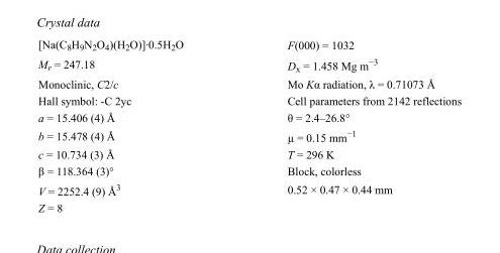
<table><tbody><tr><td>[Na(C<sub>8</sub>H<sub>9</sub>N<sub>2</sub>O<sub>4</sub>)(H<sub>2</sub>O)]·0.5H<sub>2</sub>O</td><td>F(000) = 1032</td></tr><tr><td>M<sub>r</sub> = 247.18</td><td>D<sub>x</sub> = 1.458 Mg m<sup>−3</sup></td></tr><tr><td>Monoclinic, C2/c</td><td>Mo Kα radiation, λ = 0.71073 Å</td></tr><tr><td>Hall symbol: -C 2yc</td><td>Cell parameters from 2142 reflections</td></tr><tr><td>a = 15.406 (4) Å</td><td>θ = 2.4–26.8°</td></tr><tr><td>b = 15.478 (4) Å</td><td>µ = 0.15 mm<sup>−1</sup></td></tr><tr><td>c = 10.734 (3) Å</td><td>T = 296 K</td></tr><tr><td>β = 118.364 (3)°</td><td>Block, colorless</td></tr><tr><td>V = 2252.4 (9) Å<sup>3</sup></td><td>0.52 × 0.47 × 0.44 mm</td></tr><tr><td>Z = 8</td><td></td></tr></tbody></table>